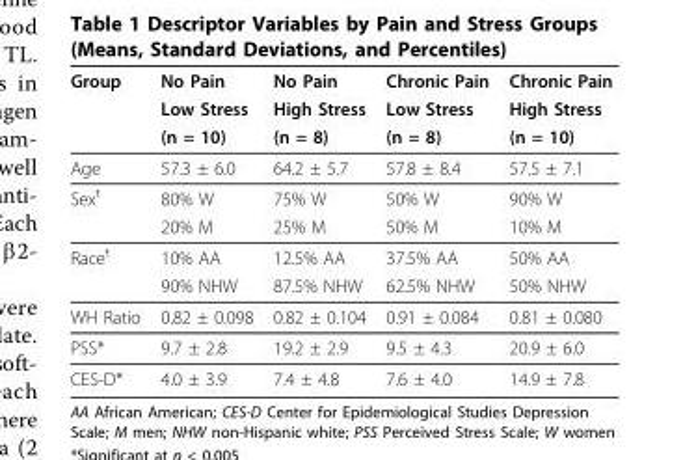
<table><thead><tr><td rowspan="3">Group</td><td rowspan="3">No Pain Low Stress (n = 10)</td><td rowspan="3">No Pain High Stress (n = 8)</td><td rowspan="3">Chronic Pain Low Stress (n = 8)</td><td rowspan="3">Chronic Pain High Stress (n = 10)</td></tr><tr></tr><tr></tr></thead><tbody><tr><td>Age</td><td>57.3 ± 6.0</td><td>64.2 ± 5.7</td><td>57.8 ± 8.4</td><td>57.5 ± 7.1</td></tr><tr><td rowspan="2">Sex<sup>ŧ</sup></td><td>80% W</td><td>75% W</td><td>50% W</td><td>90% W</td></tr><tr><td>20% M</td><td>25% M</td><td>50% M</td><td>10% M</td></tr><tr><td rowspan="2">Race<sup>ŧ</sup></td><td>10% AA</td><td>12.5% AA</td><td>37.5% AA</td><td>50% AA</td></tr><tr><td>90% NHW</td><td>87.5% NHW</td><td>62.5% NHW</td><td>50% NHW</td></tr><tr><td>WH Ratio</td><td>0.82 ± 0.098</td><td>0.82 ± 0.104</td><td>0.91 ± 0.084</td><td>0.81 ± 0.080</td></tr><tr><td>PSS*</td><td>9.7 ± 2.8</td><td>19.2 ± 2.9</td><td>9.5 ± 4.3</td><td>20.9 ± 6.0</td></tr><tr><td>CES-D*</td><td>4.0 ± 3.9</td><td>7.4 ± 4.8</td><td>7.6 ± 4.0</td><td>14.9 ± 7.8</td></tr></tbody></table>